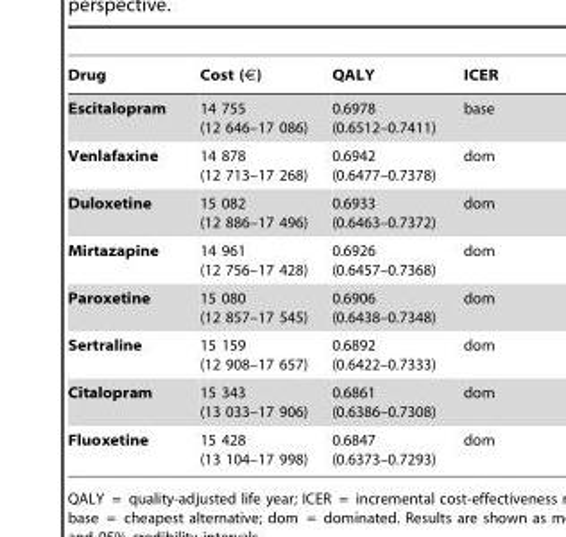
<table><thead><tr><td>Drug</td><td>Cost (€)</td><td>QALY</td><td>ICER</td></tr></thead><tbody><tr><td>Escitalopram</td><td>14 755 (12 646–17 086)</td><td>0.6978 (0.6512–0.7411)</td><td>base</td></tr><tr><td>Venlafaxine</td><td>14 878 (12 713–17 268)</td><td>0.6942 (0.6477–0.7378)</td><td>dom</td></tr><tr><td>Duloxetine</td><td>15 082 (12 886–17 496)</td><td>0.6933 (0.6463–0.7372)</td><td>dom</td></tr><tr><td>Mirtazapine</td><td>14 961 (12 756–17 428)</td><td>0.6926 (0.6457–0.7368)</td><td>dom</td></tr><tr><td>Paroxetine</td><td>15 080 (12 857–17 545)</td><td>0.6906 (0.6438–0.7348)</td><td>dom</td></tr><tr><td>Sertraline</td><td>15 159 (12 908–17 657)</td><td>0.6892 (0.6422–0.7333)</td><td>dom</td></tr><tr><td>Citalopram</td><td>15 343 (13 033–17 906)</td><td>0.6861 (0.6386–0.7308)</td><td>dom</td></tr><tr><td>Fluoxetine</td><td>15 428 (13 104–17 998)</td><td>0.6847 (0.6373–0.7293)</td><td>dom</td></tr></tbody></table>